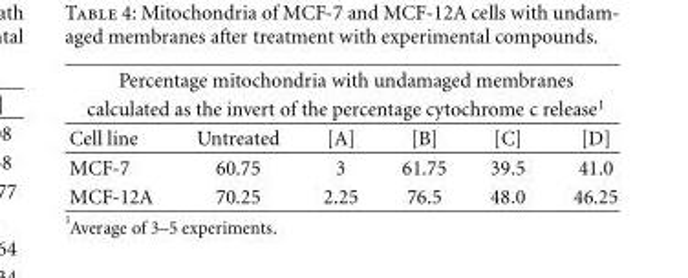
<table><thead><tr><td rowspan="2" colspan="6">Percentage mitochondria with undamaged membranes calculated as the invert of the percentage cytochrome c release1</td></tr><tr></tr><tr><td>Cell line</td><td>Untreated</td><td>[A]</td><td>[B]</td><td>[C]</td><td>[D]</td></tr></thead><tbody><tr><td>MCF-7</td><td>60.75</td><td>3</td><td>61.75</td><td>39.5</td><td>41.0</td></tr><tr><td>MCF-12A</td><td>70.25</td><td>2.25</td><td>76.5</td><td>48.0</td><td>46.25</td></tr></tbody></table>